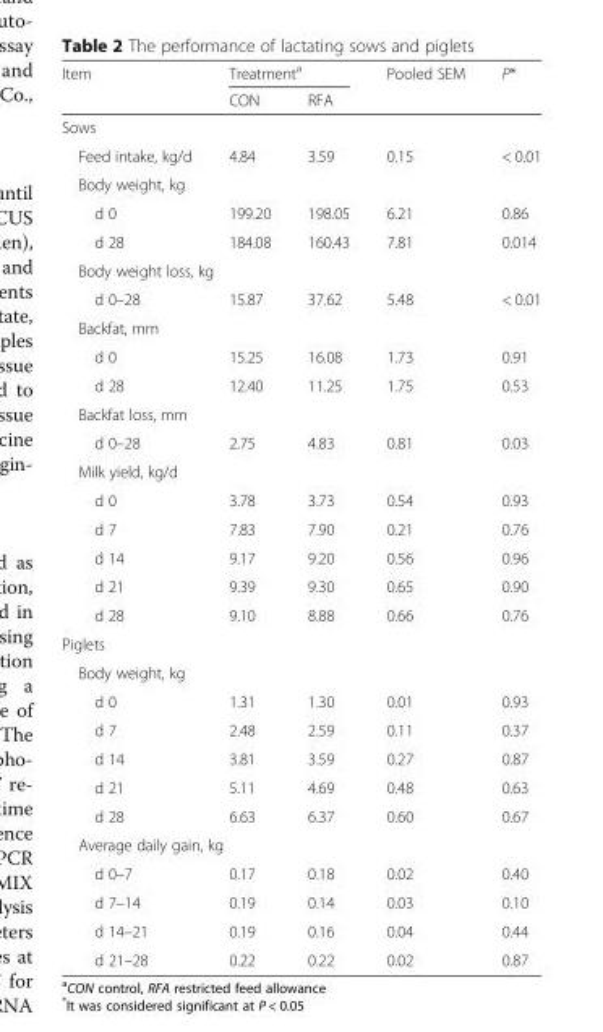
<table><thead><tr><td rowspan="2">Item</td><td colspan="2">Treatment<sup>a</sup></td><td rowspan="2">Pooled SEM</td><td rowspan="2">P*</td></tr><tr><td>CON</td><td>RFA</td></tr></thead><tbody><tr><td colspan="5">Sows</td></tr><tr><td>Feed intake, kg/d</td><td>4.84</td><td>3.59</td><td>0.15</td><td>&lt; 0.01</td></tr><tr><td colspan="5">Body weight, kg</td></tr><tr><td>d 0</td><td>199.20</td><td>198.05</td><td>6.21</td><td>0.86</td></tr><tr><td>d 28</td><td>184.08</td><td>160.43</td><td>7.81</td><td>0.014</td></tr><tr><td colspan="5">Body weight loss, kg</td></tr><tr><td>d 0–28</td><td>15.87</td><td>37.62</td><td>5.48</td><td>&lt; 0.01</td></tr><tr><td colspan="5">Backfat, mm</td></tr><tr><td>d 0</td><td>15.25</td><td>16.08</td><td>1.73</td><td>0.91</td></tr><tr><td>d 28</td><td>12.40</td><td>11.25</td><td>1.75</td><td>0.53</td></tr><tr><td colspan="5">Backfat loss, mm</td></tr><tr><td>d 0–28</td><td>2.75</td><td>4.83</td><td>0.81</td><td>0.03</td></tr><tr><td colspan="5">Milk yield, kg/d</td></tr><tr><td>d 0</td><td>3.78</td><td>3.73</td><td>0.54</td><td>0.93</td></tr><tr><td>d 7</td><td>7.83</td><td>7.90</td><td>0.21</td><td>0.76</td></tr><tr><td>d 14</td><td>9.17</td><td>9.20</td><td>0.56</td><td>0.96</td></tr><tr><td>d 21</td><td>9.39</td><td>9.30</td><td>0.65</td><td>0.90</td></tr><tr><td>d 28</td><td>9.10</td><td>8.88</td><td>0.66</td><td>0.76</td></tr><tr><td colspan="5">Piglets</td></tr><tr><td colspan="5">Body weight, kg</td></tr><tr><td>d 0</td><td>1.31</td><td>1.30</td><td>0.01</td><td>0.93</td></tr><tr><td>d 7</td><td>2.48</td><td>2.59</td><td>0.11</td><td>0.37</td></tr><tr><td>d 14</td><td>3.81</td><td>3.59</td><td>0.27</td><td>0.87</td></tr><tr><td>d 21</td><td>5.11</td><td>4.69</td><td>0.48</td><td>0.63</td></tr><tr><td>d 28</td><td>6.63</td><td>6.37</td><td>0.60</td><td>0.67</td></tr><tr><td colspan="5">Average daily gain, kg</td></tr><tr><td>d 0–7</td><td>0.17</td><td>0.18</td><td>0.02</td><td>0.40</td></tr><tr><td>d 7–14</td><td>0.19</td><td>0.14</td><td>0.03</td><td>0.10</td></tr><tr><td>d 14–21</td><td>0.19</td><td>0.16</td><td>0.04</td><td>0.44</td></tr><tr><td>d 21–28</td><td>0.22</td><td>0.22</td><td>0.02</td><td>0.87</td></tr></tbody></table>